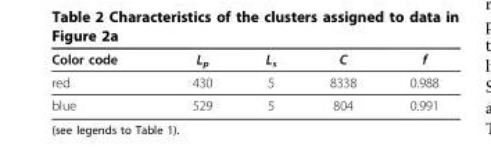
<table><thead><tr><td>Color code</td><td>L<sub>p</sub></td><td>L<sub>s</sub></td><td>C</td><td>f</td></tr></thead><tbody><tr><td>red</td><td>430</td><td>5</td><td>8338</td><td>0.988</td></tr><tr><td>blue</td><td>529</td><td>5</td><td>804</td><td>0.991</td></tr></tbody></table>